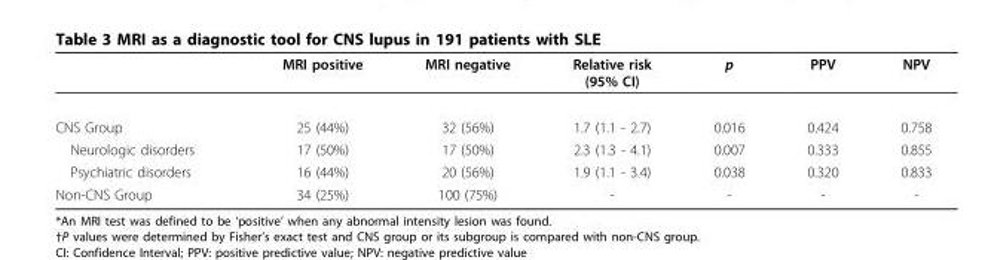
<table><thead><tr><td></td><td>MRI positive</td><td>MRI negative</td><td>Relative risk (95% CI)</td><td>p</td><td>PPV</td><td>NPV</td></tr></thead><tbody><tr><td>CNS Group</td><td>25 (44%)</td><td>32 (56%)</td><td>1.7 (1.1 - 2.7)</td><td>0.016</td><td>0.424</td><td>0.758</td></tr><tr><td>Neurologic disorders</td><td>17 (50%)</td><td>17 (50%)</td><td>2.3 (1.3 - 4.1)</td><td>0.007</td><td>0.333</td><td>0.855</td></tr><tr><td>Psychiatric disorders</td><td>16 (44%)</td><td>20 (56%)</td><td>1.9 (1.1 - 3.4)</td><td>0.038</td><td>0.320</td><td>0.833</td></tr><tr><td>Non-CNS Group</td><td>34 (25%)</td><td>100 (75%)</td><td>-</td><td>-</td><td>-</td><td>-</td></tr></tbody></table>